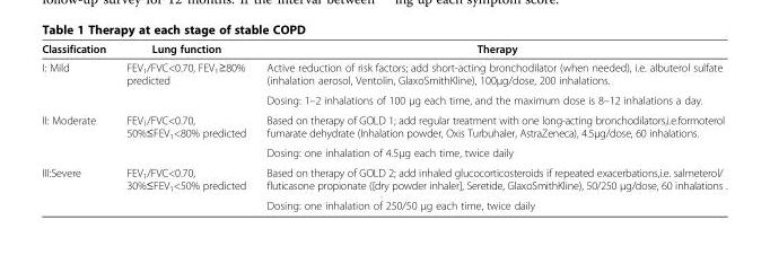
<table><thead><tr><td>Classification</td><td>Lung function</td><td>Therapy</td></tr></thead><tbody><tr><td rowspan="2">I: Mild</td><td rowspan="2">FEV<sub>1</sub>/FVC&lt;0.70, FEV<sub>1</sub>≥80% predicted</td><td>Active reduction of risk factors; add short-acting bronchodilator (when needed), i.e. albuterol sulfate (inhalation aerosol, Ventolin, GlaxoSmithKline), 100μg/dose, 200 inhalations.</td></tr><tr><td>Dosing: 1–2 inhalations of 100 μg each time, and the maximum dose is 8–12 inhalations a day.</td></tr><tr><td rowspan="2">II: Moderate</td><td rowspan="2">FEV<sub>1</sub>/FVC&lt;0.70, 50%≤FEV<sub>1</sub>&lt;80% predicted</td><td>Based on therapy of GOLD 1; add regular treatment with one long-acting bronchodilators,i.e.formoterol fumarate dehydrate (Inhalation powder, Oxis Turbuhaler, AstraZeneca), 4.5μg/dose, 60 inhalations.</td></tr><tr><td>Dosing: one inhalation of 4.5μg each time, twice daily</td></tr><tr><td rowspan="2">III:Severe</td><td>FEV<sub>1</sub>/FVC&lt;0.70, 30%≤FEV<sub>1</sub>&lt;50% predicted</td><td>Based on therapy of GOLD 2; add inhaled glucocorticosteroids if repeated exacerbations,i.e. salmeterol/ fluticasone propionate ([dry powder inhaler], Seretide, GlaxoSmithKline), 50/250 μg/dose, 60 inhalations .</td></tr><tr><td></td><td>Dosing: one inhalation of 250/50 μg each time, twice daily</td></tr></tbody></table>